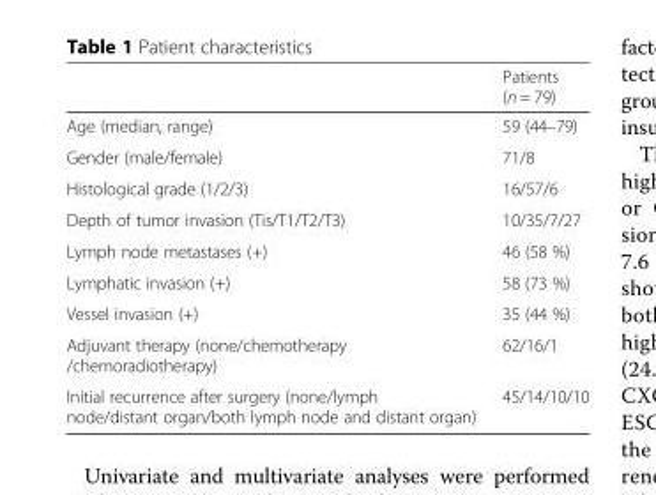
<table><thead><tr><td></td><td>Patients (n = 79)</td></tr></thead><tbody><tr><td>Age (median, range)</td><td>59 (44–79)</td></tr><tr><td>Gender (male/female)</td><td>71/8</td></tr><tr><td>Histological grade (1/2/3)</td><td>16/57/6</td></tr><tr><td>Depth of tumor invasion (Tis/T1/T2/T3)</td><td>10/35/7/27</td></tr><tr><td>Lymph node metastases (+)</td><td>46 (58 %)</td></tr><tr><td>Lymphatic invasion (+)</td><td>58 (73 %)</td></tr><tr><td>Vessel invasion (+)</td><td>35 (44 %)</td></tr><tr><td>Adjuvant therapy (none/chemotherapy /chemoradiotherapy)</td><td>62/16/1</td></tr><tr><td>Initial recurrence after surgery (none/lymph node/distant organ/both lymph node and distant organ)</td><td>45/14/10/10</td></tr></tbody></table>